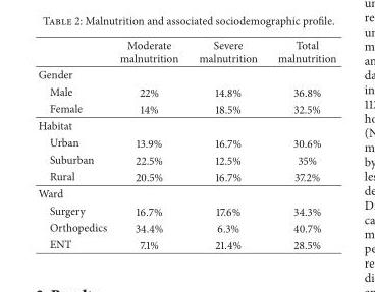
<table><thead><tr><td></td><td>Moderate malnutrition</td><td>Severe malnutrition</td><td>Total malnutrition</td></tr></thead><tbody><tr><td colspan="4">Gender</td></tr><tr><td>Male</td><td>22%</td><td>14.8%</td><td>36.8%</td></tr><tr><td>Female</td><td>14%</td><td>18.5%</td><td>32.5%</td></tr><tr><td colspan="4">Habitat</td></tr><tr><td>Urban</td><td>13.9%</td><td>16.7%</td><td>30.6%</td></tr><tr><td>Suburban</td><td>22.5%</td><td>12.5%</td><td>35%</td></tr><tr><td>Rural</td><td>20.5%</td><td>16.7%</td><td>37.2%</td></tr><tr><td colspan="4">Ward</td></tr><tr><td>Surgery</td><td>16.7%</td><td>17.6%</td><td>34.3%</td></tr><tr><td>Orthopedics</td><td>34.4%</td><td>6.3%</td><td>40.7%</td></tr><tr><td>ENT</td><td>7.1%</td><td>21.4%</td><td>28.5%</td></tr></tbody></table>